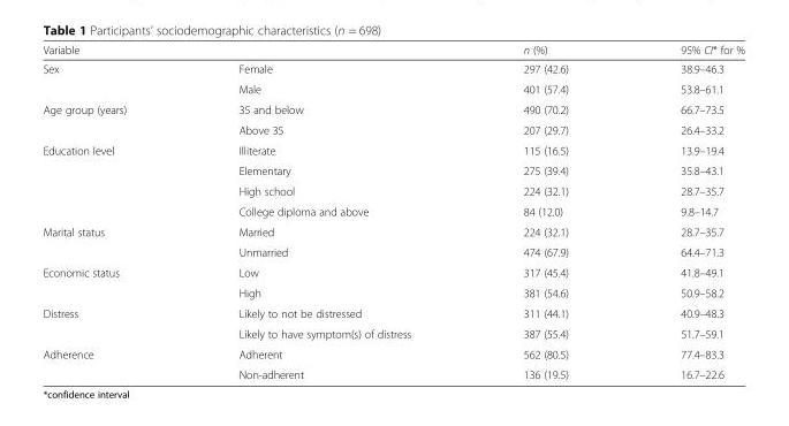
<table><thead><tr><td>Variable</td><td></td><td>n (%)</td><td>95% CI* for %</td></tr></thead><tbody><tr><td rowspan="2">Sex</td><td>Female</td><td>297 (42.6)</td><td>38.9–46.3</td></tr><tr><td>Male</td><td>401 (57.4)</td><td>53.8–61.1</td></tr><tr><td rowspan="2">Age group (years)</td><td>35 and below</td><td>490 (70.2)</td><td>66.7–73.5</td></tr><tr><td>Above 35</td><td>207 (29.7)</td><td>26.4–33.2</td></tr><tr><td rowspan="4">Education level</td><td>Illiterate</td><td>115 (16.5)</td><td>13.9–19.4</td></tr><tr><td>Elementary</td><td>275 (39.4)</td><td>35.8–43.1</td></tr><tr><td>High school</td><td>224 (32.1)</td><td>28.7–35.7</td></tr><tr><td>College diploma and above</td><td>84 (12.0)</td><td>9.8–14.7</td></tr><tr><td rowspan="2">Marital status</td><td>Married</td><td>224 (32.1)</td><td>28.7–35.7</td></tr><tr><td>Unmarried</td><td>474 (67.9)</td><td>64.4–71.3</td></tr><tr><td rowspan="2">Economic status</td><td>Low</td><td>317 (45.4)</td><td>41.8–49.1</td></tr><tr><td>High</td><td>381 (54.6)</td><td>50.9–58.2</td></tr><tr><td rowspan="2">Distress</td><td>Likely to not be distressed</td><td>311 (44.1)</td><td>40.9–48.3</td></tr><tr><td>Likely to have symptom(s) of distress</td><td>387 (55.4)</td><td>51.7–59.1</td></tr><tr><td rowspan="2">Adherence</td><td>Adherent</td><td>562 (80.5)</td><td>77.4–83.3</td></tr><tr><td>Non-adherent</td><td>136 (19.5)</td><td>16.7–22.6</td></tr></tbody></table>